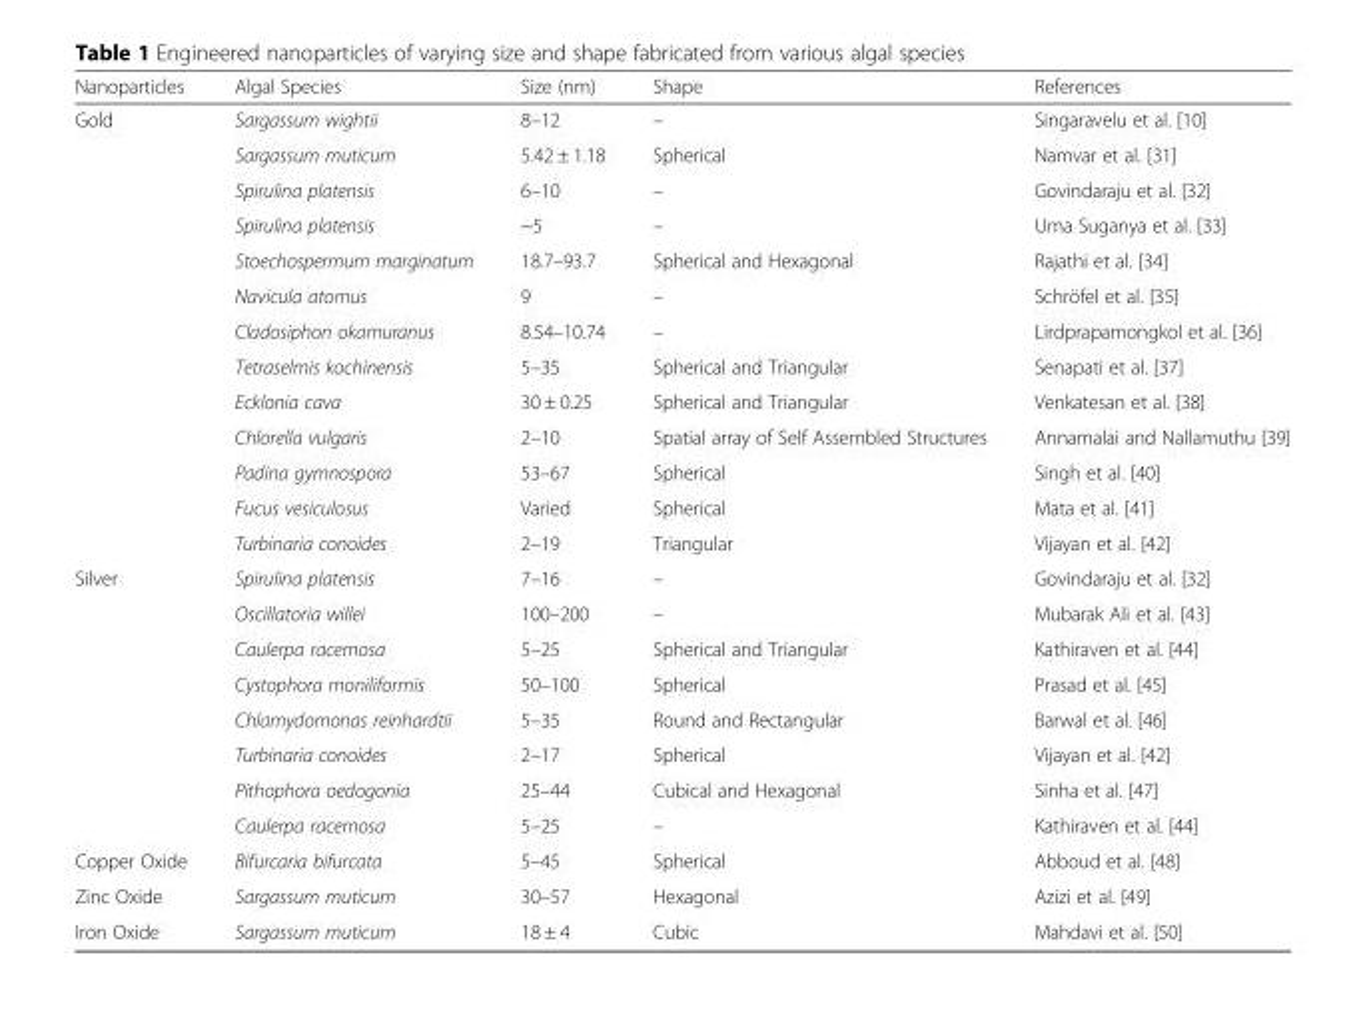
<table><thead><tr><td>Nanoparticles</td><td>Algal Species</td><td>Size (nm)</td><td>Shape</td><td>References</td></tr></thead><tbody><tr><td rowspan="13">Gold</td><td>Sargassum wightii</td><td>8–12</td><td>–</td><td>Singaravelu et al. [10]</td></tr><tr><td>Sargassum muticum</td><td>5.42 ± 1.18</td><td>Spherical</td><td>Namvar et al. [31]</td></tr><tr><td>Spirulina platensis</td><td>6–10</td><td>–</td><td>Govindaraju et al. [32]</td></tr><tr><td>Spirulina platensis</td><td>~5</td><td>–</td><td>Uma Suganya et al. [33]</td></tr><tr><td>Stoechospermum marginatum</td><td>18.7–93.7</td><td>Spherical and Hexagonal</td><td>Rajathi et al. [34]</td></tr><tr><td>Navicula atomus</td><td>9</td><td>–</td><td>Schröfel et al. [35]</td></tr><tr><td>Cladosiphon okamuranus</td><td>8.54–10.74</td><td>–</td><td>Lirdprapamongkol et al. [36]</td></tr><tr><td>Tetraselmis kochinensis</td><td>5–35</td><td>Spherical and Triangular</td><td>Senapati et al. [37]</td></tr><tr><td>Ecklonia cava</td><td>30 ± 0.25</td><td>Spherical and Triangular</td><td>Venkatesan et al. [38]</td></tr><tr><td>Chlorella vulgaris</td><td>2–10</td><td>Spatial array of Self Assembled Structures</td><td>Annamalai and Nallamuthu [39]</td></tr><tr><td>Padina gymnospora</td><td>53–67</td><td>Spherical</td><td>Singh et al. [40]</td></tr><tr><td>Fucus vesiculosus</td><td>Varied</td><td>Spherical</td><td>Mata et al. [41]</td></tr><tr><td>Turbinaria conoides</td><td>2–19</td><td>Triangular</td><td>Vijayan et al. [42]</td></tr><tr><td rowspan="8">Silver</td><td>Spirulina platensis</td><td>7–16</td><td>–</td><td>Govindaraju et al. [32]</td></tr><tr><td>Oscillatoria willei</td><td>100–200</td><td>–</td><td>Mubarak Ali et al. [43]</td></tr><tr><td>Caulerpa racemosa</td><td>5–25</td><td>Spherical and Triangular</td><td>Kathiraven et al. [44]</td></tr><tr><td>Cystophora moniliformis</td><td>50–100</td><td>Spherical</td><td>Prasad et al. [45]</td></tr><tr><td>Chlamydomonas reinhardtii</td><td>5–35</td><td>Round and Rectangular</td><td>Barwal et al. [46]</td></tr><tr><td>Turbinaria conoides</td><td>2–17</td><td>Spherical</td><td>Vijayan et al. [42]</td></tr><tr><td>Pithophora oedogonia</td><td>25–44</td><td>Cubical and Hexagonal</td><td>Sinha et al. [47]</td></tr><tr><td>Caulerpa racemosa</td><td>5–25</td><td>–</td><td>Kathiraven et al. [44]</td></tr><tr><td>Copper Oxide</td><td>Bifurcaria bifurcata</td><td>5–45</td><td>Spherical</td><td>Abboud et al. [48]</td></tr><tr><td>Zinc Oxide</td><td>Sargassum muticum</td><td>30–57</td><td>Hexagonal</td><td>Azizi et al. [49]</td></tr><tr><td>Iron Oxide</td><td>Sargassum muticum</td><td>18 ± 4</td><td>Cubic</td><td>Mahdavi et al. [50]</td></tr></tbody></table>